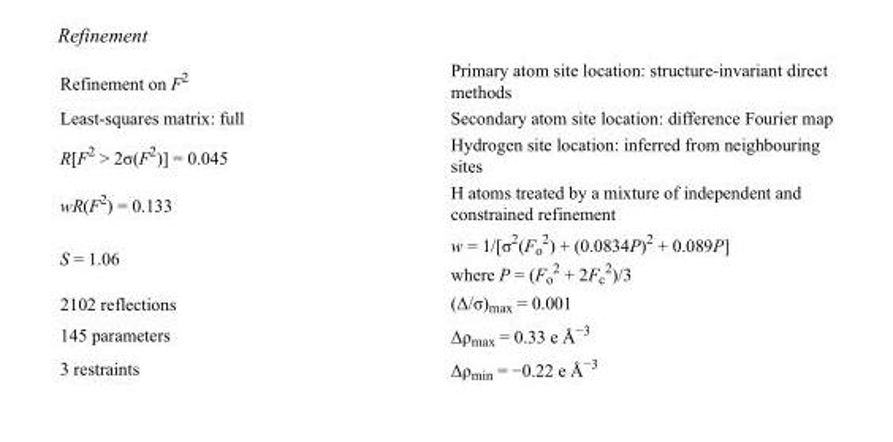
<table><tbody><tr><td>Refinement on F<sup>2</sup></td><td>Primary atom site location: structure-invariant direct methods</td></tr><tr><td>Least-squares matrix: full</td><td>Secondary atom site location: difference Fourier map</td></tr><tr><td>R[F<sup>2</sup> &gt; 2σ(F<sup>2</sup>)] = 0.045</td><td>Hydrogen site location: inferred from neighbouring sites</td></tr><tr><td>wR(F<sup>2</sup>) = 0.133</td><td>H atoms treated by a mixture of independent and constrained refinement</td></tr><tr><td>S = 1.06</td><td>w = 1/[σ<sup>2</sup>(F<sub>o</sub> <sup>2</sup>) + (0.0834P)<sup>2</sup> + 0.089P] where P = (F<sub>o</sub> <sup>2</sup> + 2F<sub>c</sub> <sup>2</sup>)/3</td></tr><tr><td>2102 reflections</td><td>(Δ/σ)<sub>max</sub> = 0.001</td></tr><tr><td>145 parameters</td><td>Δρ<sub>max</sub> = 0.33 e Å<sup>−3</sup></td></tr><tr><td>3 restraints</td><td>Δρ<sub>min</sub> = −0.22 e Å<sup>−3</sup></td></tr></tbody></table>